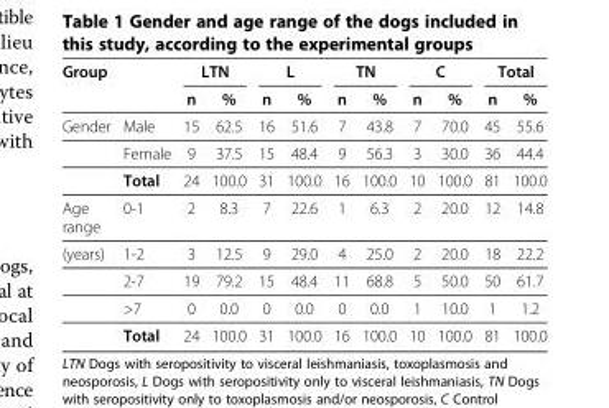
<table><thead><tr><td rowspan="2" colspan="2">Group</td><td colspan="2">LTN</td><td colspan="2">L</td><td colspan="2">TN</td><td colspan="2">C</td><td colspan="2">Total</td></tr><tr><td rowspan="2">n 15</td><td rowspan="2">% 62.5</td><td rowspan="2">n 16</td><td rowspan="2">% 51.6</td><td rowspan="2">n 7</td><td rowspan="2">% 43.8</td><td rowspan="2">n 7</td><td rowspan="2">% 70.0</td><td rowspan="2">n 45</td><td rowspan="2">% 55.6</td></tr><tr><td>Gender</td><td>Male</td></tr></thead><tbody><tr><td></td><td>Female</td><td>9</td><td>37.5</td><td>15</td><td>48.4</td><td>9</td><td>56.3</td><td>3</td><td>30.0</td><td>36</td><td>44.4</td></tr><tr><td></td><td>Total</td><td>24</td><td>100.0</td><td>31</td><td>100.0</td><td>16</td><td>100.0</td><td>10</td><td>100.0</td><td>81</td><td>100.0</td></tr><tr><td>Age range</td><td>0-1</td><td>2</td><td>8.3</td><td>7</td><td>22.6</td><td>1</td><td>6.3</td><td>2</td><td>20.0</td><td>12</td><td>14.8</td></tr><tr><td rowspan="4">(years)</td><td>1-2</td><td>3</td><td>12.5</td><td>9</td><td>29.0</td><td>4</td><td>25.0</td><td>2</td><td>20.0</td><td>18</td><td>22.2</td></tr><tr><td>2-7</td><td>19</td><td>79.2</td><td>15</td><td>48.4</td><td>11</td><td>68.8</td><td>5</td><td>50.0</td><td>50</td><td>61.7</td></tr><tr><td>&gt;7</td><td>0</td><td>0.0</td><td>0</td><td>0.0</td><td>0</td><td>0.0</td><td>1</td><td>10.0</td><td>1</td><td>1.2</td></tr><tr><td>Total</td><td>24</td><td>100.0</td><td>31</td><td>100.0</td><td>16</td><td>100.0</td><td>10</td><td>100.0</td><td>81</td><td>100.0</td></tr></tbody></table>